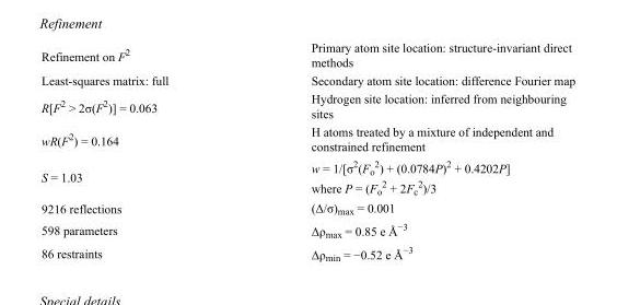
<table><tbody><tr><td>Refinement on F<sup>2</sup></td><td>Primary atom site location: structure-invariant direct methods</td></tr><tr><td>Least-squares matrix: full</td><td>Secondary atom site location: difference Fourier map</td></tr><tr><td>R[F<sup>2</sup> &gt; 2σ(F<sup>2</sup>)] = 0.063</td><td>Hydrogen site location: inferred from neighbouring sites</td></tr><tr><td>wR(F<sup>2</sup>) = 0.164</td><td>H atoms treated by a mixture of independent and constrained refinement</td></tr><tr><td>S = 1.03</td><td>w = 1/[σ<sup>2</sup>(F<sub>o</sub> <sup>2</sup>) + (0.0784P)<sup>2</sup> + 0.4202P] where P = (F<sub>o</sub> <sup>2</sup> + 2F<sub>c</sub> <sup>2</sup>)/3</td></tr><tr><td>9216 reflections</td><td>(Δ/σ)<sub>max</sub> = 0.001</td></tr><tr><td>598 parameters</td><td>Δρ<sub>max</sub> = 0.85 e Å<sup>−3</sup></td></tr><tr><td>86 restraints</td><td>Δρ<sub>min</sub> = −0.52 e Å<sup>−3</sup></td></tr></tbody></table>